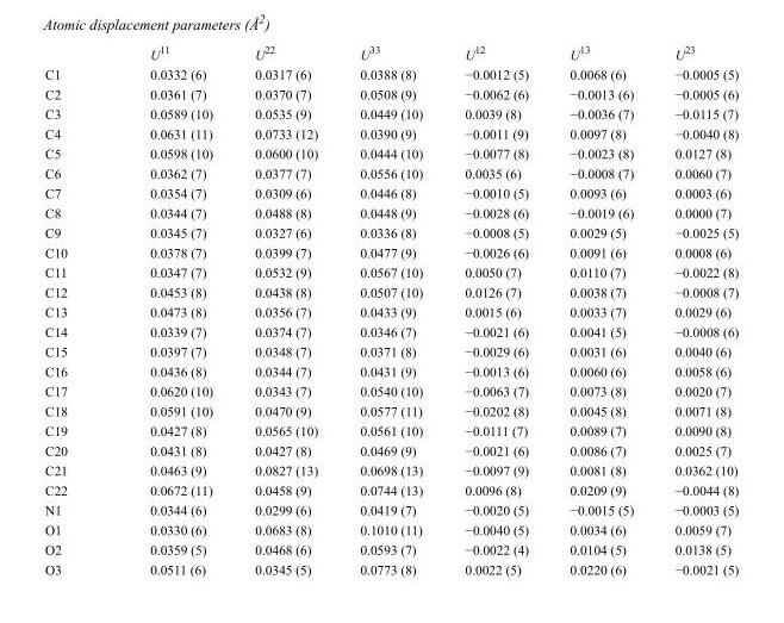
<table><thead><tr><td></td><td>U<sup>11</sup></td><td>U<sup>22</sup></td><td>U<sup>33</sup></td><td>U<sup>12</sup></td><td>U<sup>13</sup></td><td>U<sup>23</sup></td></tr></thead><tbody><tr><td>C1</td><td>0.0332 (6)</td><td>0.0317 (6)</td><td>0.0388 (8)</td><td>−0.0012 (5)</td><td>0.0068 (6)</td><td>−0.0005 (5)</td></tr><tr><td>C2</td><td>0.0361 (7)</td><td>0.0370 (7)</td><td>0.0508 (9)</td><td>−0.0062 (6)</td><td>−0.0013 (6)</td><td>−0.0005 (6)</td></tr><tr><td>C3</td><td>0.0589 (10)</td><td>0.0535 (9)</td><td>0.0449 (10)</td><td>0.0039 (8)</td><td>−0.0036 (7)</td><td>−0.0115 (7)</td></tr><tr><td>C4</td><td>0.0631 (11)</td><td>0.0733 (12)</td><td>0.0390 (9)</td><td>−0.0011 (9)</td><td>0.0097 (8)</td><td>−0.0040 (8)</td></tr><tr><td>C5</td><td>0.0598 (10)</td><td>0.0600 (10)</td><td>0.0444 (10)</td><td>−0.0077 (8)</td><td>−0.0023 (8)</td><td>0.0127 (8)</td></tr><tr><td>C6</td><td>0.0362 (7)</td><td>0.0377 (7)</td><td>0.0556 (10)</td><td>0.0035 (6)</td><td>−0.0008 (7)</td><td>0.0060 (7)</td></tr><tr><td>C7</td><td>0.0354 (7)</td><td>0.0309 (6)</td><td>0.0446 (8)</td><td>−0.0010 (5)</td><td>0.0093 (6)</td><td>0.0003 (6)</td></tr><tr><td>C8</td><td>0.0344 (7)</td><td>0.0488 (8)</td><td>0.0448 (9)</td><td>−0.0028 (6)</td><td>−0.0019 (6)</td><td>0.0000 (7)</td></tr><tr><td>C9</td><td>0.0345 (7)</td><td>0.0327 (6)</td><td>0.0336 (8)</td><td>−0.0008 (5)</td><td>0.0029 (5)</td><td>−0.0025 (5)</td></tr><tr><td>C10</td><td>0.0378 (7)</td><td>0.0399 (7)</td><td>0.0477 (9)</td><td>−0.0026 (6)</td><td>0.0091 (6)</td><td>0.0008 (6)</td></tr><tr><td>C11</td><td>0.0347 (7)</td><td>0.0532 (9)</td><td>0.0567 (10)</td><td>0.0050 (7)</td><td>0.0110 (7)</td><td>−0.0022 (8)</td></tr><tr><td>C12</td><td>0.0453 (8)</td><td>0.0438 (8)</td><td>0.0507 (10)</td><td>0.0126 (7)</td><td>0.0038 (7)</td><td>−0.0008 (7)</td></tr><tr><td>C13</td><td>0.0473 (8)</td><td>0.0356 (7)</td><td>0.0433 (9)</td><td>0.0015 (6)</td><td>0.0033 (7)</td><td>0.0029 (6)</td></tr><tr><td>C14</td><td>0.0339 (7)</td><td>0.0374 (7)</td><td>0.0346 (7)</td><td>−0.0021 (6)</td><td>0.0041 (5)</td><td>−0.0008 (6)</td></tr><tr><td>C15</td><td>0.0397 (7)</td><td>0.0348 (7)</td><td>0.0371 (8)</td><td>−0.0029 (6)</td><td>0.0031 (6)</td><td>0.0040 (6)</td></tr><tr><td>C16</td><td>0.0436 (8)</td><td>0.0344 (7)</td><td>0.0431 (9)</td><td>−0.0013 (6)</td><td>0.0060 (6)</td><td>0.0058 (6)</td></tr><tr><td>C17</td><td>0.0620 (10)</td><td>0.0343 (7)</td><td>0.0540 (10)</td><td>−0.0063 (7)</td><td>0.0073 (8)</td><td>0.0020 (7)</td></tr><tr><td>C18</td><td>0.0591 (10)</td><td>0.0470 (9)</td><td>0.0577 (11)</td><td>−0.0202 (8)</td><td>0.0045 (8)</td><td>0.0071 (8)</td></tr><tr><td>C19</td><td>0.0427 (8)</td><td>0.0565 (10)</td><td>0.0561 (10)</td><td>−0.0111 (7)</td><td>0.0089 (7)</td><td>0.0090 (8)</td></tr><tr><td>C20</td><td>0.0431 (8)</td><td>0.0427 (8)</td><td>0.0469 (9)</td><td>−0.0021 (6)</td><td>0.0086 (7)</td><td>0.0025 (7)</td></tr><tr><td>C21</td><td>0.0463 (9)</td><td>0.0827 (13)</td><td>0.0698 (13)</td><td>−0.0097 (9)</td><td>0.0081 (8)</td><td>0.0362 (10)</td></tr><tr><td>C22</td><td>0.0672 (11)</td><td>0.0458 (9)</td><td>0.0744 (13)</td><td>0.0096 (8)</td><td>0.0209 (9)</td><td>−0.0044 (8)</td></tr><tr><td>N1</td><td>0.0344 (6)</td><td>0.0299 (6)</td><td>0.0419 (7)</td><td>−0.0020 (5)</td><td>−0.0015 (5)</td><td>−0.0003 (5)</td></tr><tr><td>O1</td><td>0.0330 (6)</td><td>0.0683 (8)</td><td>0.1010 (11)</td><td>−0.0040 (5)</td><td>0.0034 (6)</td><td>0.0059 (7)</td></tr><tr><td>O2</td><td>0.0359 (5)</td><td>0.0468 (6)</td><td>0.0593 (7)</td><td>−0.0022 (4)</td><td>0.0104 (5)</td><td>0.0138 (5)</td></tr><tr><td>O3</td><td>0.0511 (6)</td><td>0.0345 (5)</td><td>0.0773 (8)</td><td>0.0022 (5)</td><td>0.0220 (6)</td><td>−0.0021 (5)</td></tr></tbody></table>